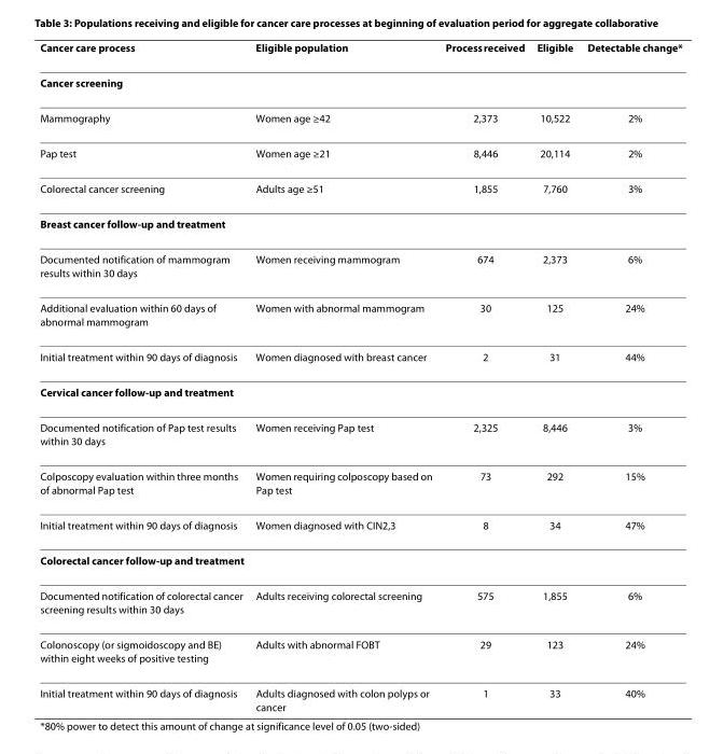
<table><thead><tr><td>Cancer care process</td><td>Eligible population</td><td>Process received</td><td>Eligible</td><td>Detectable change*</td></tr></thead><tbody><tr><td colspan="5">Cancer screening</td></tr><tr><td>Mammography</td><td>Women age ≥42</td><td>2,373</td><td>10,522</td><td>2%</td></tr><tr><td>Pap test</td><td>Women age ≥21</td><td>8,446</td><td>20,114</td><td>2%</td></tr><tr><td>Colorectal cancer screening</td><td>Adults age ≥51</td><td>1,855</td><td>7,760</td><td>3%</td></tr><tr><td colspan="5">Breast cancer follow-up and treatment</td></tr><tr><td>Documented notification of mammogram results within 30 days</td><td>Women receiving mammogram</td><td>674</td><td>2,373</td><td>6%</td></tr><tr><td>Additional evaluation within 60 days of abnormal mammogram</td><td>Women with abnormal mammogram</td><td>30</td><td>125</td><td>24%</td></tr><tr><td>Initial treatment within 90 days of diagnosis</td><td>Women diagnosed with breast cancer</td><td>2</td><td>31</td><td>44%</td></tr><tr><td colspan="5">Cervical cancer follow-up and treatment</td></tr><tr><td>Documented notification of Pap test results within 30 days</td><td>Women receiving Pap test</td><td>2,325</td><td>8,446</td><td>3%</td></tr><tr><td>Colposcopy evaluation within three months of abnormal Pap test</td><td>Women requiring colposcopy based on Pap test</td><td>73</td><td>292</td><td>15%</td></tr><tr><td>Initial treatment within 90 days of diagnosis</td><td>Women diagnosed with CIN2,3</td><td>8</td><td>34</td><td>47%</td></tr><tr><td colspan="5">Colorectal cancer follow-up and treatment</td></tr><tr><td>Documented notification of colorectal cancer screening results within 30 days</td><td>Adults receiving colorectal screening</td><td>575</td><td>1,855</td><td>6%</td></tr><tr><td>Colonoscopy (or sigmoidoscopy and BE) within eight weeks of positive testing</td><td>Adults with abnormal FOBT</td><td>29</td><td>123</td><td>24%</td></tr><tr><td>Initial treatment within 90 days of diagnosis</td><td>Adults diagnosed with colon polyps or cancer</td><td>1</td><td>33</td><td>40%</td></tr></tbody></table>